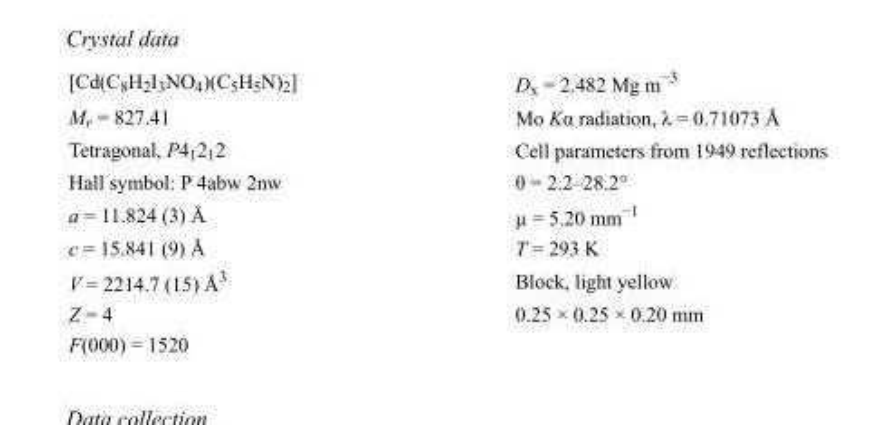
<table><tbody><tr><td>[Cd(C<sub>8</sub>H<sub>2</sub>I<sub>3</sub>NO<sub>4</sub>)(C<sub>5</sub>H<sub>5</sub>N)<sub>2</sub>]</td><td>D<sub>x</sub> = 2.482 Mg m<sup>−3</sup></td></tr><tr><td>M<sub>r</sub> = 827.41</td><td>Mo Kα radiation, λ = 0.71073 Å</td></tr><tr><td>Tetragonal, P4<sub>1</sub>2<sub>1</sub>2</td><td>Cell parameters from 1949 reflections</td></tr><tr><td>Hall symbol: P 4abw 2nw</td><td>θ = 2.2–28.2°</td></tr><tr><td>a = 11.824 (3) Å</td><td>µ = 5.20 mm<sup>−1</sup></td></tr><tr><td>c = 15.841 (9) Å</td><td>T = 293 K</td></tr><tr><td>V = 2214.7 (15) Å<sup>3</sup></td><td>Block, light yellow</td></tr><tr><td>Z = 4</td><td>0.25 × 0.25 × 0.20 mm</td></tr><tr><td>F(000) = 1520</td><td></td></tr></tbody></table>